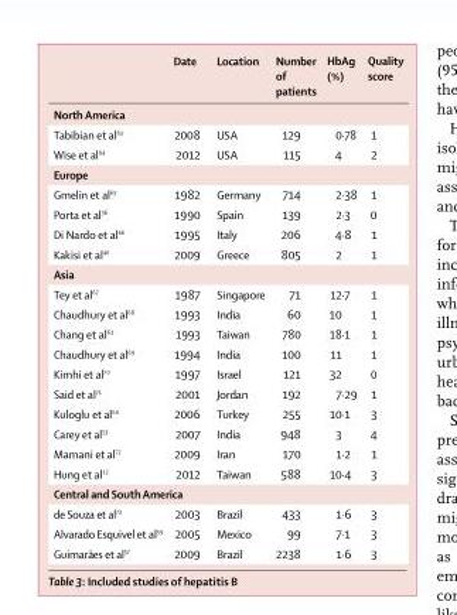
<table><thead><tr><td></td><td>Date</td><td>Location</td><td>Number of patients</td><td>HbAg (%)</td><td>Quality score</td></tr></thead><tbody><tr><td colspan="6">North America</td></tr><tr><td>Tabibian et al<sup>63</sup></td><td>2008</td><td>USA</td><td>129</td><td>0·78</td><td>1</td></tr><tr><td>Wise et al<sup>64</sup></td><td>2012</td><td>USA</td><td>115</td><td>4</td><td>2</td></tr><tr><td colspan="6">Europe</td></tr><tr><td>Gmelin et al<sup>65</sup></td><td>1982</td><td>Germany</td><td>714</td><td>2·38</td><td>1</td></tr><tr><td>Porta et al<sup>36</sup></td><td>1990</td><td>Spain</td><td>139</td><td>2·3</td><td>0</td></tr><tr><td>Di Nardo et al<sup>66</sup></td><td>1995</td><td>Italy</td><td>206</td><td>4·8</td><td>1</td></tr><tr><td>Kakisi et al<sup>40</sup></td><td>2009</td><td>Greece</td><td>805</td><td>2</td><td>1</td></tr><tr><td colspan="6">Asia</td></tr><tr><td>Tey et al<sup>67</sup></td><td>1987</td><td>Singapore</td><td>71</td><td>12·7</td><td>1</td></tr><tr><td>Chaudhury et al<sup>68</sup></td><td>1993</td><td>India</td><td>60</td><td>10</td><td>1</td></tr><tr><td>Chang et al<sup>61</sup></td><td>1993</td><td>Taiwan</td><td>780</td><td>18·1</td><td>1</td></tr><tr><td>Chaudhury et al<sup>69</sup></td><td>1994</td><td>India</td><td>100</td><td>11</td><td>1</td></tr><tr><td>Kimhi et al<sup>70</sup></td><td>1997</td><td>Israel</td><td>121</td><td>32</td><td>0</td></tr><tr><td>Said et al<sup>71</sup></td><td>2001</td><td>Jordan</td><td>192</td><td>7·29</td><td>1</td></tr><tr><td>Kuloglu et al<sup>60</sup></td><td>2006</td><td>Turkey</td><td>255</td><td>10·1</td><td>3</td></tr><tr><td>Carey et al<sup>53</sup></td><td>2007</td><td>India</td><td>948</td><td>3</td><td>4</td></tr><tr><td>Mamani et al<sup>72</sup></td><td>2009</td><td>Iran</td><td>170</td><td>1·2</td><td>1</td></tr><tr><td>Hung et al<sup>12</sup></td><td>2012</td><td>Taiwan</td><td>588</td><td>10·4</td><td>3</td></tr><tr><td colspan="6">Central and South America</td></tr><tr><td>de Souza et al<sup>73</sup></td><td>2003</td><td>Brazil</td><td>433</td><td>1·6</td><td>3</td></tr><tr><td>Alvarado Esquivel et al<sup>59</sup></td><td>2005</td><td>Mexico</td><td>99</td><td>7·1</td><td>3</td></tr><tr><td>Guimarães et al<sup>57</sup></td><td>2009</td><td>Brazil</td><td>2238</td><td>1·6</td><td>3</td></tr></tbody></table>